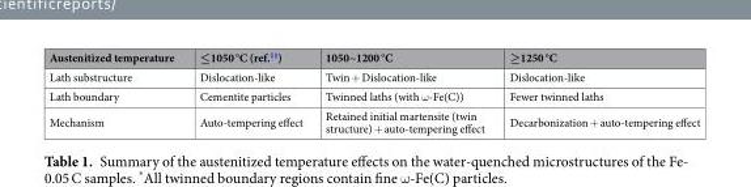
<table><thead><tr><td>Austenitized temperature</td><td>≤1050 °C (ref.<sup>11</sup>)</td><td>1050~1200 °C</td><td>≥1250 °C</td></tr></thead><tbody><tr><td>Lath substructure</td><td>Dislocation-like</td><td>Twin + Dislocation-like</td><td>Dislocation-like</td></tr><tr><td>Lath boundary</td><td>Cementite particles</td><td>Twinned laths (with ω-Fe(C))</td><td>Fewer twinned laths</td></tr><tr><td>Mechanism</td><td>Auto-tempering effect</td><td>Retained initial martensite (twin structure) + auto-tempering effect</td><td>Decarbonization + auto-tempering effect</td></tr></tbody></table>